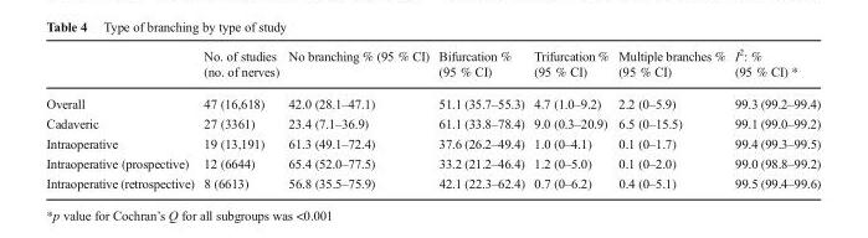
<table><thead><tr><td></td><td>No. of studies (no. of nerves)</td><td>No branching % (95 % CI)</td><td>Bifurcation % (95 % CI)</td><td>Trifurcation % (95 % CI)</td><td>Multiple branches % (95 % CI)</td><td>I<sup>2</sup>: % (95 % CI) *</td></tr></thead><tbody><tr><td>Overall</td><td>47 (16,618)</td><td>42.0 (28.1–47.1)</td><td>51.1 (35.7–55.3)</td><td>4.7 (1.0–9.2)</td><td>2.2 (0–5.9)</td><td>99.3 (99.2–99.4)</td></tr><tr><td>Cadaveric</td><td>27 (3361)</td><td>23.4 (7.1–36.9)</td><td>61.1 (33.8–78.4)</td><td>9.0 (0.3–20.9)</td><td>6.5 (0–15.5)</td><td>99.1 (99.0–99.2)</td></tr><tr><td>Intraoperative</td><td>19 (13,191)</td><td>61.3 (49.1–72.4)</td><td>37.6 (26.2–49.4)</td><td>1.0 (0–4.1)</td><td>0.1 (0–1.7)</td><td>99.4 (99.3–99.5)</td></tr><tr><td>Intraoperative (prospective)</td><td>12 (6644)</td><td>65.4 (52.0–77.5)</td><td>33.2 (21.2–46.4)</td><td>1.2 (0–5.0)</td><td>0.1 (0–2.0)</td><td>99.0 (98.8–99.2)</td></tr><tr><td>Intraoperative (retrospective)</td><td>8 (6613)</td><td>56.8 (35.5–75.9)</td><td>42.1 (22.3–62.4)</td><td>0.7 (0–6.2)</td><td>0.4 (0–5.1)</td><td>99.5 (99.4–99.6)</td></tr></tbody></table>